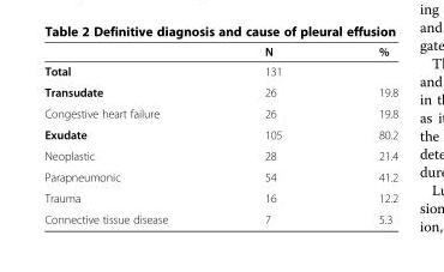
<table><thead><tr><td></td><td>N</td><td>%</td></tr></thead><tbody><tr><td>Total</td><td>131</td><td></td></tr><tr><td>Transudate</td><td>26</td><td>19.8</td></tr><tr><td>Congestive heart failure</td><td>26</td><td>19.8</td></tr><tr><td>Exudate</td><td>105</td><td>80.2</td></tr><tr><td>Neoplastic</td><td>28</td><td>21.4</td></tr><tr><td>Parapneumonic</td><td>54</td><td>41.2</td></tr><tr><td>Trauma</td><td>16</td><td>12.2</td></tr><tr><td>Connective tissue disease</td><td>7</td><td>5.3</td></tr></tbody></table>